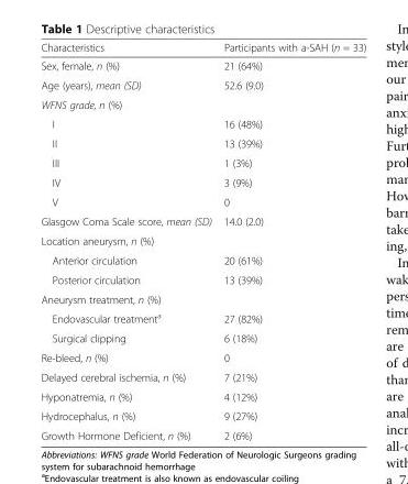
<table><thead><tr><td>Characteristics</td><td>Participants with a-SAH (n = 33)</td></tr></thead><tbody><tr><td>Sex, female, n (%)</td><td>21 (64%)</td></tr><tr><td>Age (years), mean (SD)</td><td>52.6 (9.0)</td></tr><tr><td colspan="2">WFNS grade, n (%)</td></tr><tr><td>I</td><td>16 (48%)</td></tr><tr><td>II</td><td>13 (39%)</td></tr><tr><td>III</td><td>1 (3%)</td></tr><tr><td>IV</td><td>3 (9%)</td></tr><tr><td>V</td><td>0</td></tr><tr><td>Glasgow Coma Scale score, mean (SD)</td><td>14.0 (2.0)</td></tr><tr><td colspan="2">Location aneurysm, n (%)</td></tr><tr><td>Anterior circulation</td><td>20 (61%)</td></tr><tr><td>Posterior circulation</td><td>13 (39%)</td></tr><tr><td colspan="2">Aneurysm treatment, n (%)</td></tr><tr><td>Endovascular treatment<sup>a</sup></td><td>27 (82%)</td></tr><tr><td>Surgical clipping</td><td>6 (18%)</td></tr><tr><td>Re-bleed, n (%)</td><td>0</td></tr><tr><td>Delayed cerebral ischemia, n (%)</td><td>7 (21%)</td></tr><tr><td>Hyponatremia, n (%)</td><td>4 (12%)</td></tr><tr><td>Hydrocephalus, n (%)</td><td>9 (27%)</td></tr><tr><td>Growth Hormone Deficient, n (%)</td><td>2 (6%)</td></tr></tbody></table>